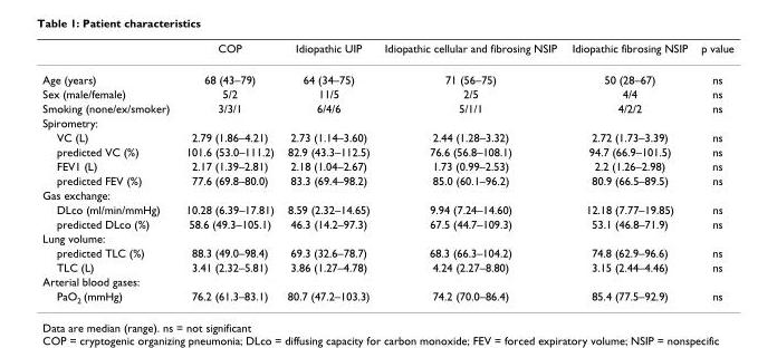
<table><thead><tr><td></td><td>COP</td><td>Idiopathic UIP</td><td>Idiopathic cellular and fibrosing NSIP</td><td>Idiopathic fibrosing NSIP</td><td>p value</td></tr></thead><tbody><tr><td>Age (years)</td><td>68 (43–79)</td><td>64 (34–75)</td><td>71 (56–75)</td><td>50 (28–67)</td><td>ns</td></tr><tr><td>Sex (male/female)</td><td>5/2</td><td>11/5</td><td>2/5</td><td>4/4</td><td>ns</td></tr><tr><td>Smoking (none/ex/smoker)</td><td>3/3/1</td><td>6/4/6</td><td>5/1/1</td><td>4/2/2</td><td>ns</td></tr><tr><td colspan="6">Spirometry:</td></tr><tr><td>VC (L)</td><td>2.79 (1.86–4.21)</td><td>2.73 (1.14–3.60)</td><td>2.44 (1.28–3.32)</td><td>2.72 (1.73–3.39)</td><td>ns</td></tr><tr><td>predicted VC (%)</td><td>101.6 (53.0–111.2)</td><td>82.9 (43.3–112.5)</td><td>76.6 (56.8–108.1)</td><td>94.7 (66.9–101.5)</td><td>ns</td></tr><tr><td>FEV1 (L)</td><td>2.17 (1.39–2.81)</td><td>2.18 (1.04–2.67)</td><td>1.73 (0.99–2.53)</td><td>2.2 (1.26–2.98)</td><td>ns</td></tr><tr><td>predicted FEV (%)</td><td>77.6 (69.8–80.0)</td><td>83.3 (69.4–98.2)</td><td>85.0 (60.1–96.2)</td><td>80.9 (66.5–89.5)</td><td>ns</td></tr><tr><td colspan="6">Gas exchange:</td></tr><tr><td>DLco (ml/min/mmHg)</td><td>10.28 (6.39–17.81)</td><td>8.59 (2.32–14.65)</td><td>9.94 (7.24–14.60)</td><td>12.18 (7.77–19.85)</td><td>ns</td></tr><tr><td>predicted DLco (%)</td><td>58.6 (49.3–105.1)</td><td>46.3 (14.2–97.3)</td><td>67.5 (44.7–109.3)</td><td>53.1 (46.8–71.9)</td><td>ns</td></tr><tr><td colspan="6">Lung volume:</td></tr><tr><td>predicted TLC (%)</td><td>88.3 (49.0–98.4)</td><td>69.3 (32.6–78.7)</td><td>68.3 (66.3–104.2)</td><td>74.8 (62.9–96.6)</td><td>ns</td></tr><tr><td>TLC (L)</td><td>3.41 (2.32–5.81)</td><td>3.86 (1.27–4.78)</td><td>4.24 (2.27–8.80)</td><td>3.15 (2.44–4.46)</td><td>ns</td></tr><tr><td colspan="6">Arterial blood gases:</td></tr><tr><td>PaO<sub>2</sub> (mmHg)</td><td>76.2 (61.3–83.1)</td><td>80.7 (47.2–103.3)</td><td>74.2 (70.0–86.4)</td><td>85.4 (77.5–92.9)</td><td>ns</td></tr></tbody></table>